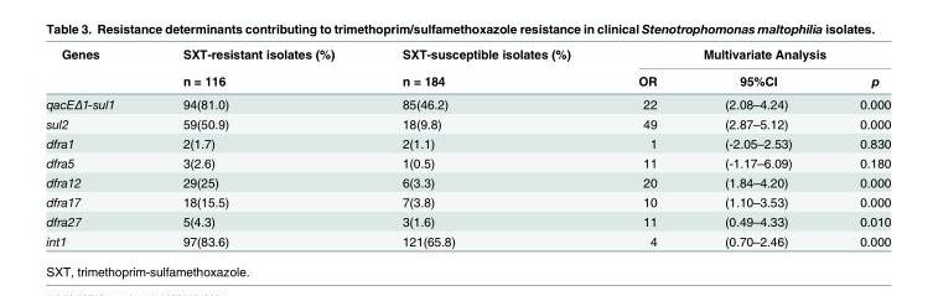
<table><thead><tr><td rowspan="2">Genes</td><td rowspan="2">SXT-resistant isolates (%) n = 116</td><td rowspan="2">SXT-susceptible isolates (%) n = 184</td><td colspan="3">Multivariate Analysis</td></tr><tr><td>OR</td><td>95%CI</td><td>p</td></tr></thead><tbody><tr><td>qacEΔ1-sul1</td><td>94(81.0)</td><td>85(46.2)</td><td>22</td><td>(2.08–4.24)</td><td>0.000</td></tr><tr><td>sul2</td><td>59(50.9)</td><td>18(9.8)</td><td>49</td><td>(2.87–5.12)</td><td>0.000</td></tr><tr><td>dfra1</td><td>2(1.7)</td><td>2(1.1)</td><td>1</td><td>(-2.05–2.53)</td><td>0.830</td></tr><tr><td>dfra5</td><td>3(2.6)</td><td>1(0.5)</td><td>11</td><td>(-1.17–6.09)</td><td>0.180</td></tr><tr><td>dfra12</td><td>29(25)</td><td>6(3.3)</td><td>20</td><td>(1.84–4.20)</td><td>0.000</td></tr><tr><td>dfra17</td><td>18(15.5)</td><td>7(3.8)</td><td>10</td><td>(1.10–3.53)</td><td>0.000</td></tr><tr><td>dfra27</td><td>5(4.3)</td><td>3(1.6)</td><td>11</td><td>(0.49–4.33)</td><td>0.010</td></tr><tr><td>int1</td><td>97(83.6)</td><td>121(65.8)</td><td>4</td><td>(0.70–2.46)</td><td>0.000</td></tr></tbody></table>